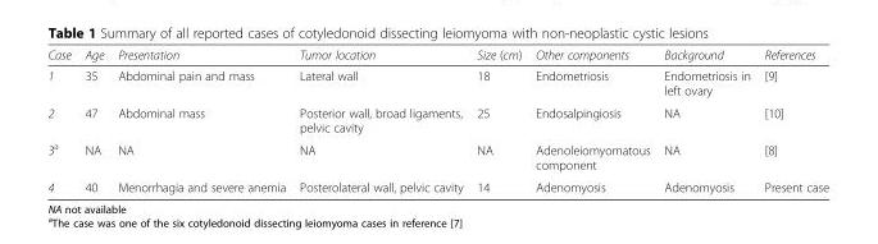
<table><thead><tr><td>Case</td><td>Age</td><td>Presentation</td><td>Tumor location</td><td>Size (cm)</td><td>Other components</td><td>Background</td><td>References</td></tr></thead><tbody><tr><td>1</td><td>35</td><td>Abdominal pain and mass</td><td>Lateral wall</td><td>18</td><td>Endometriosis</td><td>Endometriosis in left ovary</td><td>[9]</td></tr><tr><td>2</td><td>47</td><td>Abdominal mass</td><td>Posterior wall, broad ligaments, pelvic cavity</td><td>25</td><td>Endosalpingiosis</td><td>NA</td><td>[10]</td></tr><tr><td>3<sup>a</sup></td><td>NA</td><td>NA</td><td>NA</td><td>NA</td><td>Adenoleiomyomatous component</td><td>NA</td><td>[8]</td></tr><tr><td>4</td><td>40</td><td>Menorrhagia and severe anemia</td><td>Posterolateral wall, pelvic cavity</td><td>14</td><td>Adenomyosis</td><td>Adenomyosis</td><td>Present case</td></tr></tbody></table>